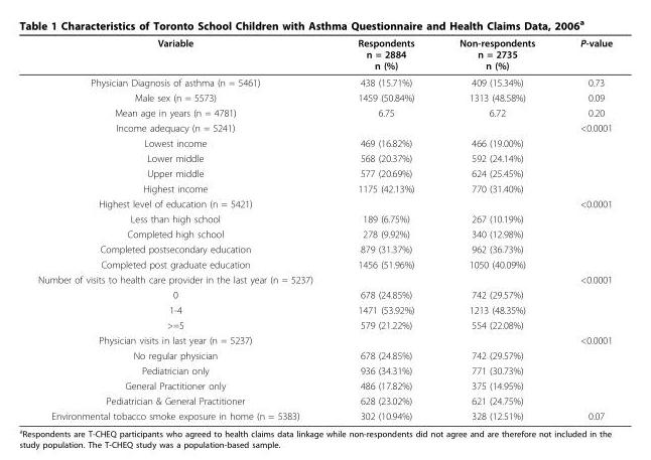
<table><thead><tr><td>Variable</td><td>Respondents n = 2884 n (%)</td><td>Non-respondents n = 2735 n (%)</td><td>P-value</td></tr></thead><tbody><tr><td>Physician Diagnosis of asthma (n = 5461)</td><td>438 (15.71%)</td><td>409 (15.34%)</td><td>0.73</td></tr><tr><td>Male sex (n = 5573)</td><td>1459 (50.84%)</td><td>1313 (48.58%)</td><td>0.09</td></tr><tr><td>Mean age in years (n = 4781)</td><td>6.75</td><td>6.72</td><td>0.20</td></tr><tr><td>Income adequacy (n = 5241)</td><td></td><td></td><td>&lt;0.0001</td></tr><tr><td>Lowest income</td><td>469 (16.82%)</td><td>466 (19.00%)</td><td></td></tr><tr><td>Lower middle</td><td>568 (20.37%)</td><td>592 (24.14%)</td><td></td></tr><tr><td>Upper middle</td><td>577 (20.69%)</td><td>624 (25.45%)</td><td></td></tr><tr><td>Highest income</td><td>1175 (42.13%)</td><td>770 (31.40%)</td><td></td></tr><tr><td>Highest level of education (n = 5421)</td><td></td><td></td><td>&lt;0.0001</td></tr><tr><td>Less than high school</td><td>189 (6.75%)</td><td>267 (10.19%)</td><td></td></tr><tr><td>Completed high school</td><td>278 (9.92%)</td><td>340 (12.98%)</td><td></td></tr><tr><td>Completed postsecondary education</td><td>879 (31.37%)</td><td>962 (36.73%)</td><td></td></tr><tr><td>Completed post graduate education</td><td>1456 (51.96%)</td><td>1050 (40.09%)</td><td></td></tr><tr><td>Number of visits to health care provider in the last year (n = 5237)</td><td></td><td></td><td>&lt;0.0001</td></tr><tr><td>0</td><td>678 (24.85%)</td><td>742 (29.57%)</td><td></td></tr><tr><td>1-4</td><td>1471 (53.92%)</td><td>1213 (48.35%)</td><td></td></tr><tr><td>&gt;=5</td><td>579 (21.22%)</td><td>554 (22.08%)</td><td></td></tr><tr><td>Physician visits in last year (n = 5237)</td><td></td><td></td><td>&lt;0.0001</td></tr><tr><td>No regular physician</td><td>678 (24.85%)</td><td>742 (29.57%)</td><td></td></tr><tr><td>Pediatrician only</td><td>936 (34.31%)</td><td>771 (30.73%)</td><td></td></tr><tr><td>General Practitioner only</td><td>486 (17.82%)</td><td>375 (14.95%)</td><td></td></tr><tr><td>Pediatrician &amp; General Practitioner</td><td>628 (23.02%)</td><td>621 (24.75%)</td><td></td></tr><tr><td>Environmental tobacco smoke exposure in home (n = 5383)</td><td>302 (10.94%)</td><td>328 (12.51%)</td><td>0.07</td></tr></tbody></table>